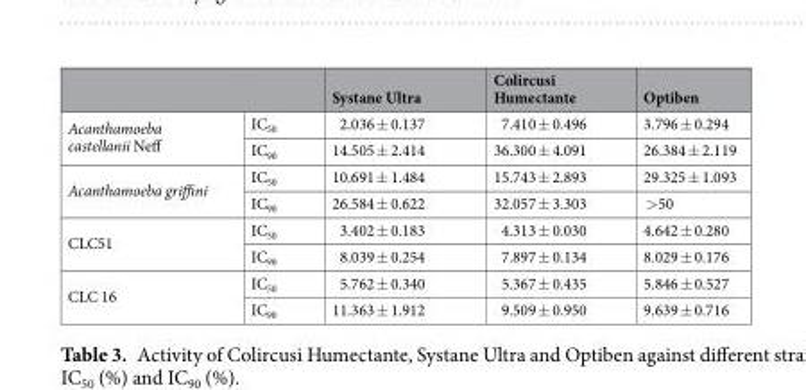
<table><thead><tr><td></td><td></td><td>Systane Ultra</td><td>Colircusi Humectante</td><td>Optiben</td></tr></thead><tbody><tr><td rowspan="2">Acanthamoeba castellanii Neff</td><td>IC<sub>50</sub></td><td>2.036 ± 0.137</td><td>7.410 ± 0.496</td><td>3.796 ± 0.294</td></tr><tr><td>IC<sub>90</sub></td><td>14.505 ± 2.414</td><td>36.300 ± 4.091</td><td>26.384 ± 2.119</td></tr><tr><td rowspan="2">Acanthamoeba griffini</td><td>IC<sub>50</sub></td><td>10.691 ± 1.484</td><td>15.743 ± 2.893</td><td>29.325 ± 1.093</td></tr><tr><td>IC<sub>90</sub></td><td>26.584 ± 0.622</td><td>32.057 ± 3.303</td><td>&gt;50</td></tr><tr><td rowspan="2">CLC51</td><td>IC<sub>50</sub></td><td>3.402 ± 0.183</td><td>4.313 ± 0.030</td><td>4.642 ± 0.280</td></tr><tr><td>IC<sub>90</sub></td><td>8.039 ± 0.254</td><td>7.897 ± 0.134</td><td>8.029 ± 0.176</td></tr><tr><td rowspan="2">CLC 16</td><td>IC<sub>50</sub></td><td>5.762 ± 0.340</td><td>5.367 ± 0.435</td><td>5.846 ± 0.527</td></tr><tr><td>IC<sub>90</sub></td><td>11.363 ± 1.912</td><td>9.509 ± 0.950</td><td>9.639 ± 0.716</td></tr></tbody></table>